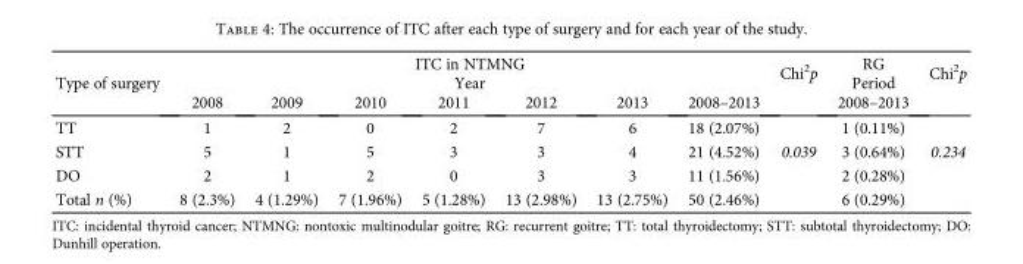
<table><thead><tr><td rowspan="3">Type of surgery</td><td rowspan="2" colspan="7">ITC in NTMNG Year</td><td rowspan="3">Chi<sup>2</sup>p</td><td rowspan="3">RG Period 2008–2013</td><td rowspan="3">Chi<sup>2</sup>p</td></tr><tr></tr><tr><td>2008</td><td>2009</td><td>2010</td><td>2011</td><td>2012</td><td>2013</td><td>2008–2013</td></tr></thead><tbody><tr><td>TT</td><td>1</td><td>2</td><td>0</td><td>2</td><td>7</td><td>6</td><td>18 (2.07%)</td><td rowspan="3">0.039</td><td>1 (0.11%)</td><td rowspan="3">0.234</td></tr><tr><td>STT</td><td>5</td><td>1</td><td>5</td><td>3</td><td>3</td><td>4</td><td>21 (4.52%)</td><td>3 (0.64%)</td></tr><tr><td>DO</td><td>2</td><td>1</td><td>2</td><td>0</td><td>3</td><td>3</td><td>11 (1.56%)</td><td>2 (0.28%)</td></tr><tr><td>Total n (%)</td><td>8 (2.3%)</td><td>4 (1.29%)</td><td>7 (1.96%)</td><td>5 (1.28%)</td><td>13 (2.98%)</td><td>13 (2.75%)</td><td>50 (2.46%)</td><td></td><td>6 (0.29%)</td><td></td></tr></tbody></table>